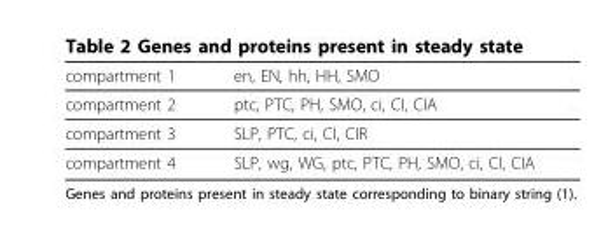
<table><thead><tr><td>compartment 1</td><td>en, EN, hh, HH, SMO</td></tr></thead><tbody><tr><td>compartment 2</td><td>ptc, PTC, PH, SMO, ci, CI, CIA</td></tr><tr><td>compartment 3</td><td>SLP, PTC, ci, CI, CIR</td></tr><tr><td>compartment 4</td><td>SLP, wg, WG, ptc, PTC, PH, SMO, ci, CI, CIA</td></tr></tbody></table>